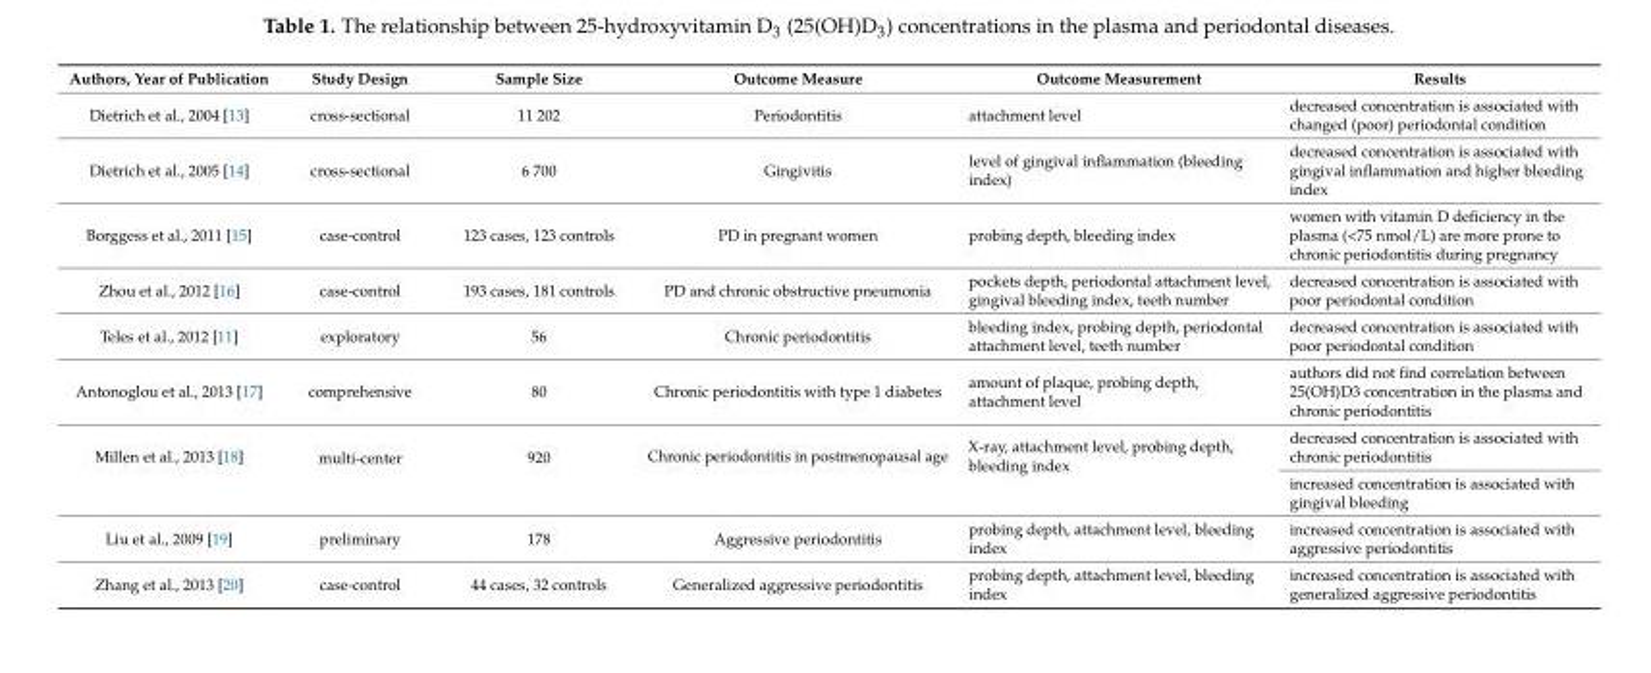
<table><thead><tr><td>Authors, Year of Publication</td><td>Study Design</td><td>Sample Size</td><td>Outcome Measure</td><td>Outcome Measurement</td><td>Results</td></tr></thead><tbody><tr><td>Dietrich et al., 2004 [13]</td><td>cross-sectional</td><td>11 202</td><td>Periodontitis</td><td>attachment level</td><td>decreased concentration is associated with changed (poor) periodontal condition</td></tr><tr><td>Dietrich et al., 2005 [14]</td><td>cross-sectional</td><td>6 700</td><td>Gingivitis</td><td>level of gingival inflammation (bleeding index)</td><td>decreased concentration is associated with gingival inflammation and higher bleeding index</td></tr><tr><td>Borggess et al., 2011 [15]</td><td>case-control</td><td>123 cases, 123 controls</td><td>PD in pregnant women</td><td>probing depth, bleeding index</td><td>women with vitamin D deficiency in the plasma (&lt;75 nmol/L) are more prone to chronic periodontitis during pregnancy</td></tr><tr><td>Zhou et al., 2012 [16]</td><td>case-control</td><td>193 cases, 181 controls</td><td>PD and chronic obstructive pneumonia</td><td>pockets depth, periodontal attachment level, gingival bleeding index, teeth number</td><td>decreased concentration is associated with poor periodontal condition</td></tr><tr><td>Teles et al., 2012 [11]</td><td>exploratory</td><td>56</td><td>Chronic periodontitis</td><td>bleeding index, probing depth, periodontal attachment level, teeth number</td><td>decreased concentration is associated with poor periodontal condition</td></tr><tr><td>Antonoglou et al., 2013 [17]</td><td>comprehensive</td><td>80</td><td>Chronic periodontitis with type 1 diabetes</td><td>amount of plaque, probing depth, attachment level</td><td>authors did not find correlation between 25(OH)D3 concentration in the plasma and chronic periodontitis</td></tr><tr><td rowspan="2">Millen et al., 2013 [18]</td><td rowspan="2">multi-center</td><td rowspan="2">920</td><td rowspan="2">Chronic periodontitis in postmenopausal age</td><td rowspan="2">X-ray, attachment level, probing depth, bleeding index</td><td>decreased concentration is associated with chronic periodontitis</td></tr><tr><td>increased concentration is associated with gingival bleeding</td></tr><tr><td>Liu et al., 2009 [19]</td><td>preliminary</td><td>178</td><td>Aggressive periodontitis</td><td>probing depth, attachment level, bleeding index</td><td>increased concentration is associated with aggressive periodontitis</td></tr><tr><td>Zhang et al., 2013 [20]</td><td>case-control</td><td>44 cases, 32 controls</td><td>Generalized aggressive periodontitis</td><td>probing depth, attachment level, bleeding index</td><td>increased concentration is associated with generalized aggressive periodontitis</td></tr></tbody></table>